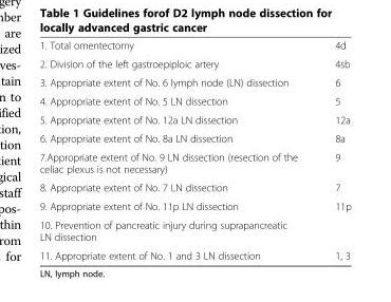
<table><tbody><tr><td>1. Total omentectomy</td><td>4d</td></tr><tr><td>2. Division of the left gastroepiploic artery</td><td>4sb</td></tr><tr><td>3. Appropriate extent of No. 6 lymph node (LN) dissection</td><td>6</td></tr><tr><td>4. Appropriate extent of No. 5 LN dissection</td><td>5</td></tr><tr><td>5. Appropriate extent of No. 12a LN dissection</td><td>12a</td></tr><tr><td>6. Appropriate extent of No. 8a LN dissection</td><td>8a</td></tr><tr><td>7.Appropriate extent of No. 9 LN dissection (resection of the celiac plexus is not necessary)</td><td>9</td></tr><tr><td>8. Appropriate extent of No. 7 LN dissection</td><td>7</td></tr><tr><td>9. Appropriate extent of No. 11p LN dissection</td><td>11p</td></tr><tr><td colspan="2">10. Prevention of pancreatic injury during suprapancreatic LN dissection</td></tr><tr><td>11. Appropriate extent of No. 1 and 3 LN dissection</td><td>1, 3</td></tr></tbody></table>